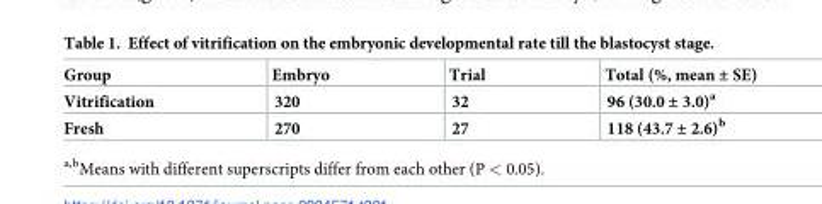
<table><thead><tr><td>Group</td><td>Embryo</td><td>Trial</td><td>Total (%, mean ± SE)</td></tr></thead><tbody><tr><td>Vitrification</td><td>320</td><td>32</td><td>96 (30.0 ± 3.0)<sup>a</sup></td></tr><tr><td>Fresh</td><td>270</td><td>27</td><td>118 (43.7 ± 2.6)<sup>b</sup></td></tr></tbody></table>